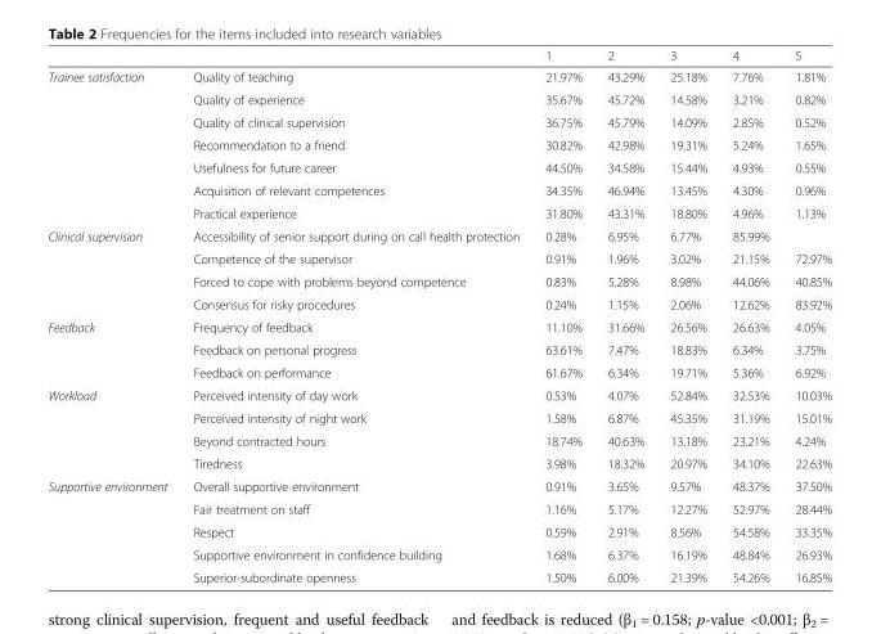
<table><thead><tr><td></td><td></td><td>1</td><td>2</td><td>3</td><td>4</td><td>5</td></tr></thead><tbody><tr><td rowspan="7">Trainee satisfaction</td><td>Quality of teaching</td><td>21.97%</td><td>43.29%</td><td>25.18%</td><td>7.76%</td><td>1.81%</td></tr><tr><td>Quality of experience</td><td>35.67%</td><td>45.72%</td><td>14.58%</td><td>3.21%</td><td>0.82%</td></tr><tr><td>Quality of clinical supervision</td><td>36.75%</td><td>45.79%</td><td>14.09%</td><td>2.85%</td><td>0.52%</td></tr><tr><td>Recommendation to a friend</td><td>30.82%</td><td>42.98%</td><td>19.31%</td><td>5.24%</td><td>1.65%</td></tr><tr><td>Usefulness for future career</td><td>44.50%</td><td>34.58%</td><td>15.44%</td><td>4.93%</td><td>0.55%</td></tr><tr><td>Acquisition of relevant competences</td><td>34.35%</td><td>46.94%</td><td>13.45%</td><td>4.30%</td><td>0.96%</td></tr><tr><td>Practical experience</td><td>31.80%</td><td>43.31%</td><td>18.80%</td><td>4.96%</td><td>1.13%</td></tr><tr><td rowspan="4">Clinical supervision</td><td>Accessibility of senior support during on call health protection</td><td>0.28%</td><td>6.95%</td><td>6.77%</td><td>85.99%</td><td></td></tr><tr><td>Competence of the supervisor</td><td>0.91%</td><td>1.96%</td><td>3.02%</td><td>21.15%</td><td>72.97%</td></tr><tr><td>Forced to cope with problems beyond competence</td><td>0.83%</td><td>5.28%</td><td>8.98%</td><td>44.06%</td><td>40.85%</td></tr><tr><td>Consensus for risky procedures</td><td>0.24%</td><td>1.15%</td><td>2.06%</td><td>12.62%</td><td>83.92%</td></tr><tr><td rowspan="3">Feedback</td><td>Frequency of feedback</td><td>11.10%</td><td>31.66%</td><td>26.56%</td><td>26.63%</td><td>4.05%</td></tr><tr><td>Feedback on personal progress</td><td>63.61%</td><td>7.47%</td><td>18.83%</td><td>6.34%</td><td>3.75%</td></tr><tr><td>Feedback on performance</td><td>61.67%</td><td>6.34%</td><td>19.71%</td><td>5.36%</td><td>6.92%</td></tr><tr><td rowspan="4">Workload</td><td>Perceived intensity of day work</td><td>0.53%</td><td>4.07%</td><td>52.84%</td><td>32.53%</td><td>10.03%</td></tr><tr><td>Perceived intensity of night work</td><td>1.58%</td><td>6.87%</td><td>45.35%</td><td>31.19%</td><td>15.01%</td></tr><tr><td>Beyond contracted hours</td><td>18.74%</td><td>40.63%</td><td>13.18%</td><td>23.21%</td><td>4.24%</td></tr><tr><td>Tiredness</td><td>3.98%</td><td>18.32%</td><td>20.97%</td><td>34.10%</td><td>22.63%</td></tr><tr><td rowspan="5">Supportive environment</td><td>Overall supportive environment</td><td>0.91%</td><td>3.65%</td><td>9.57%</td><td>48.37%</td><td>37.50%</td></tr><tr><td>Fair treatment on staff</td><td>1.16%</td><td>5.17%</td><td>12.27%</td><td>52.97%</td><td>28.44%</td></tr><tr><td>Respect</td><td>0.59%</td><td>2.91%</td><td>8.56%</td><td>54.58%</td><td>33.35%</td></tr><tr><td>Supportive environment in confidence building</td><td>1.68%</td><td>6.37%</td><td>16.19%</td><td>48.84%</td><td>26.93%</td></tr><tr><td>Superior-subordinate openness</td><td>1.50%</td><td>6.00%</td><td>21.39%</td><td>54.26%</td><td>16.85%</td></tr></tbody></table>